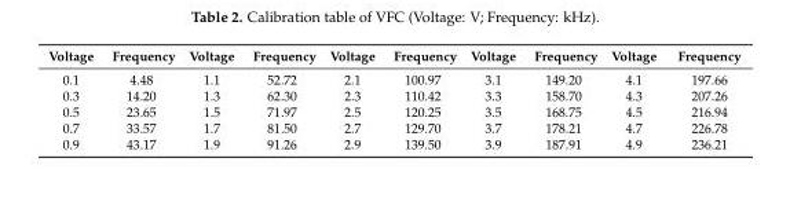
<table><thead><tr><td>Voltage</td><td>Frequency</td><td>Voltage</td><td>Frequency</td><td>Voltage</td><td>Frequency</td><td>Voltage</td><td>Frequency</td><td>Voltage</td><td>Frequency</td></tr></thead><tbody><tr><td>0.1</td><td>4.48</td><td>1.1</td><td>52.72</td><td>2.1</td><td>100.97</td><td>3.1</td><td>149.20</td><td>4.1</td><td>197.66</td></tr><tr><td>0.3</td><td>14.20</td><td>1.3</td><td>62.30</td><td>2.3</td><td>110.42</td><td>3.3</td><td>158.70</td><td>4.3</td><td>207.26</td></tr><tr><td>0.5</td><td>23.65</td><td>1.5</td><td>71.97</td><td>2.5</td><td>120.25</td><td>3.5</td><td>168.75</td><td>4.5</td><td>216.94</td></tr><tr><td>0.7</td><td>33.57</td><td>1.7</td><td>81.50</td><td>2.7</td><td>129.70</td><td>3.7</td><td>178.21</td><td>4.7</td><td>226.78</td></tr><tr><td>0.9</td><td>43.17</td><td>1.9</td><td>91.26</td><td>2.9</td><td>139.50</td><td>3.9</td><td>187.91</td><td>4.9</td><td>236.21</td></tr></tbody></table>